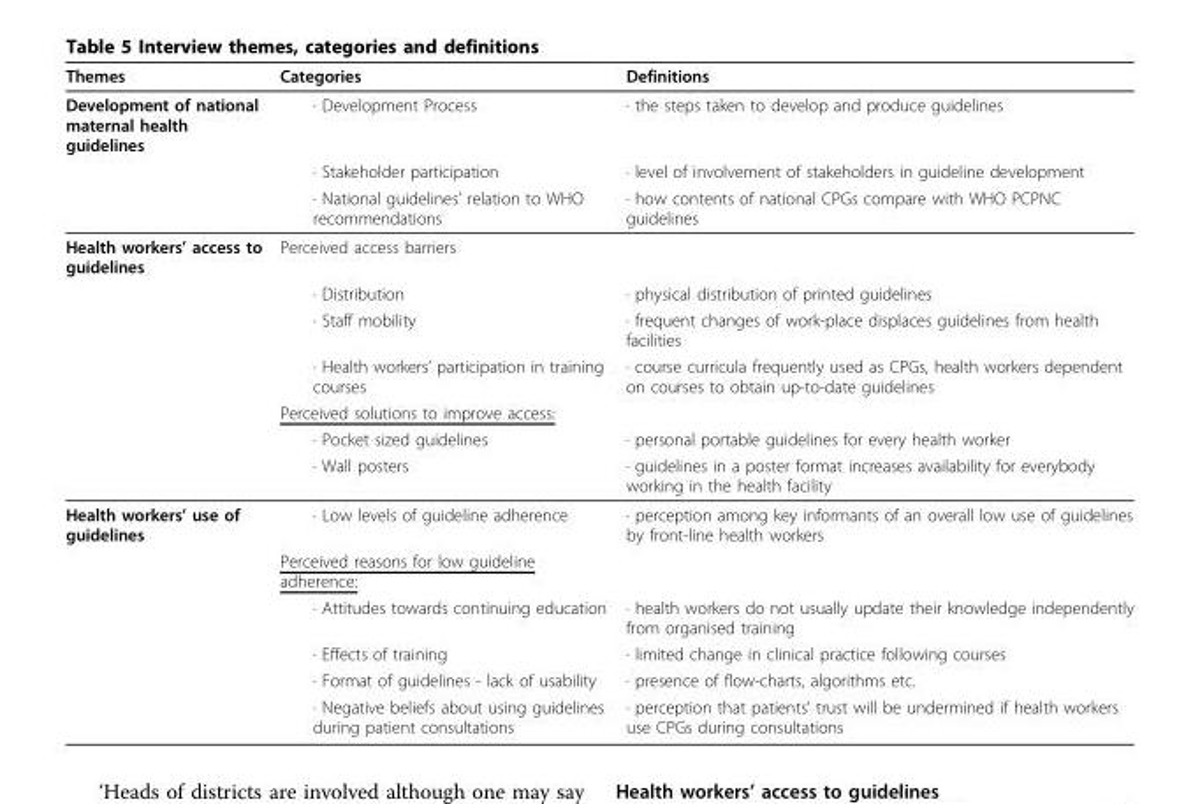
<table><thead><tr><td>Themes</td><td>Categories</td><td>Definitions</td></tr></thead><tbody><tr><td rowspan="3">Development of national maternal health guidelines</td><td>· Development Process</td><td>· the steps taken to develop and produce guidelines</td></tr><tr><td>· Stakeholder participation</td><td>· level of involvement of stakeholders in guideline development</td></tr><tr><td>· National guidelines’ relation to WHO recommendations</td><td>· how contents of national CPGs compare with WHO PCPNC guidelines</td></tr><tr><td rowspan="7">Health workers’ access to guidelines</td><td>Perceived access barriers</td><td></td></tr><tr><td>· Distribution</td><td>· physical distribution of printed guidelines</td></tr><tr><td>· Staff mobility</td><td>· frequent changes of work-place displaces guidelines from health facilities</td></tr><tr><td>· Health workers’ participation in training courses</td><td>· course curricula frequently used as CPGs, health workers dependent on courses to obtain up-to-date guidelines</td></tr><tr><td>Perceived solutions to improve access:</td><td></td></tr><tr><td>· Pocket sized guidelines</td><td>· personal portable guidelines for every health worker</td></tr><tr><td>· Wall posters</td><td>· guidelines in a poster format increases availability for everybody working in the health facility</td></tr><tr><td rowspan="6">Health workers’ use of guidelines</td><td>· Low levels of guideline adherence</td><td>· perception among key informants of an overall low use of guidelines by front-line health workers</td></tr><tr><td>Perceived reasons for low guideline adherence:</td><td></td></tr><tr><td>· Attitudes towards continuing education</td><td>· health workers do not usually update their knowledge independently from organised training</td></tr><tr><td>· Effects of training</td><td>· limited change in clinical practice following courses</td></tr><tr><td>· Format of guidelines - lack of usability</td><td>· presence of flow-charts, algorithms etc.</td></tr><tr><td>· Negative beliefs about using guidelines during patient consultations</td><td>· perception that patients’ trust will be undermined if health workers use CPGs during consultations</td></tr></tbody></table>